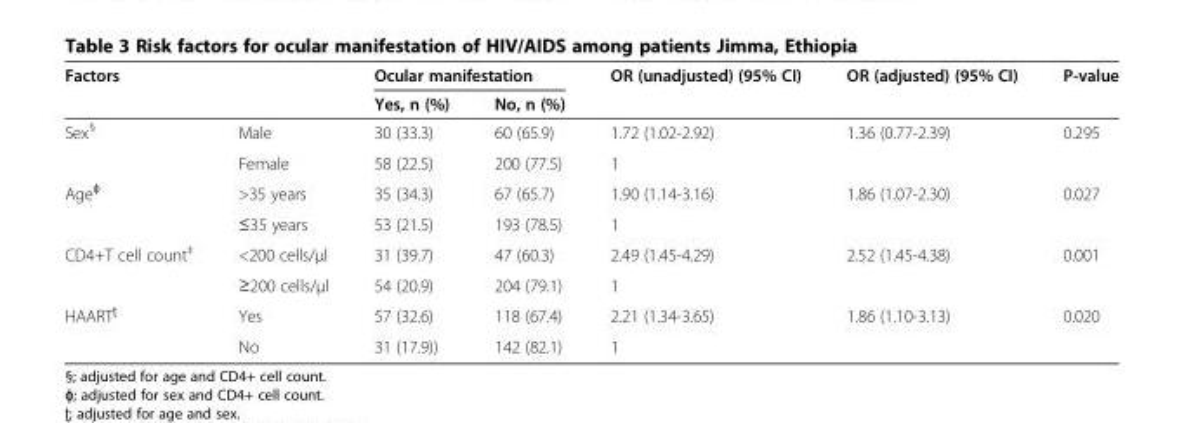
<table><thead><tr><td colspan="2">Factors</td><td colspan="2">Ocular manifestation</td><td rowspan="2">OR (unadjusted) (95% CI)</td><td rowspan="2">OR (adjusted) (95% CI)</td><td rowspan="2">P-value</td></tr><tr><td></td><td></td><td>Yes, n (%)</td><td>No, n (%)</td></tr></thead><tbody><tr><td rowspan="2">Sex<sup>§</sup></td><td>Male</td><td>30 (33.3)</td><td>60 (65.9)</td><td>1.72 (1.02-2.92)</td><td>1.36 (0.77-2.39)</td><td>0.295</td></tr><tr><td>Female</td><td>58 (22.5)</td><td>200 (77.5)</td><td>1</td><td></td><td></td></tr><tr><td rowspan="2">Age<sup>ɸ</sup></td><td>&gt;35 years</td><td>35 (34.3)</td><td>67 (65.7)</td><td>1.90 (1.14-3.16)</td><td>1.86 (1.07-2.30)</td><td>0.027</td></tr><tr><td>≤35 years</td><td>53 (21.5)</td><td>193 (78.5)</td><td>1</td><td></td><td></td></tr><tr><td rowspan="2">CD4+T cell count<sup>‡</sup></td><td>&lt;200 cells/μl</td><td>31 (39.7)</td><td>47 (60.3)</td><td>2.49 (1.45-4.29)</td><td>2.52 (1.45-4.38)</td><td>0.001</td></tr><tr><td>≥200 cells/μl</td><td>54 (20.9)</td><td>204 (79.1)</td><td>1</td><td></td><td></td></tr><tr><td rowspan="2">HAART<sup>ʈ</sup></td><td>Yes</td><td>57 (32.6)</td><td>118 (67.4)</td><td>2.21 (1.34-3.65)</td><td>1.86 (1.10-3.13)</td><td>0.020</td></tr><tr><td>No</td><td>31 (17.9))</td><td>142 (82.1)</td><td>1</td><td></td><td></td></tr></tbody></table>